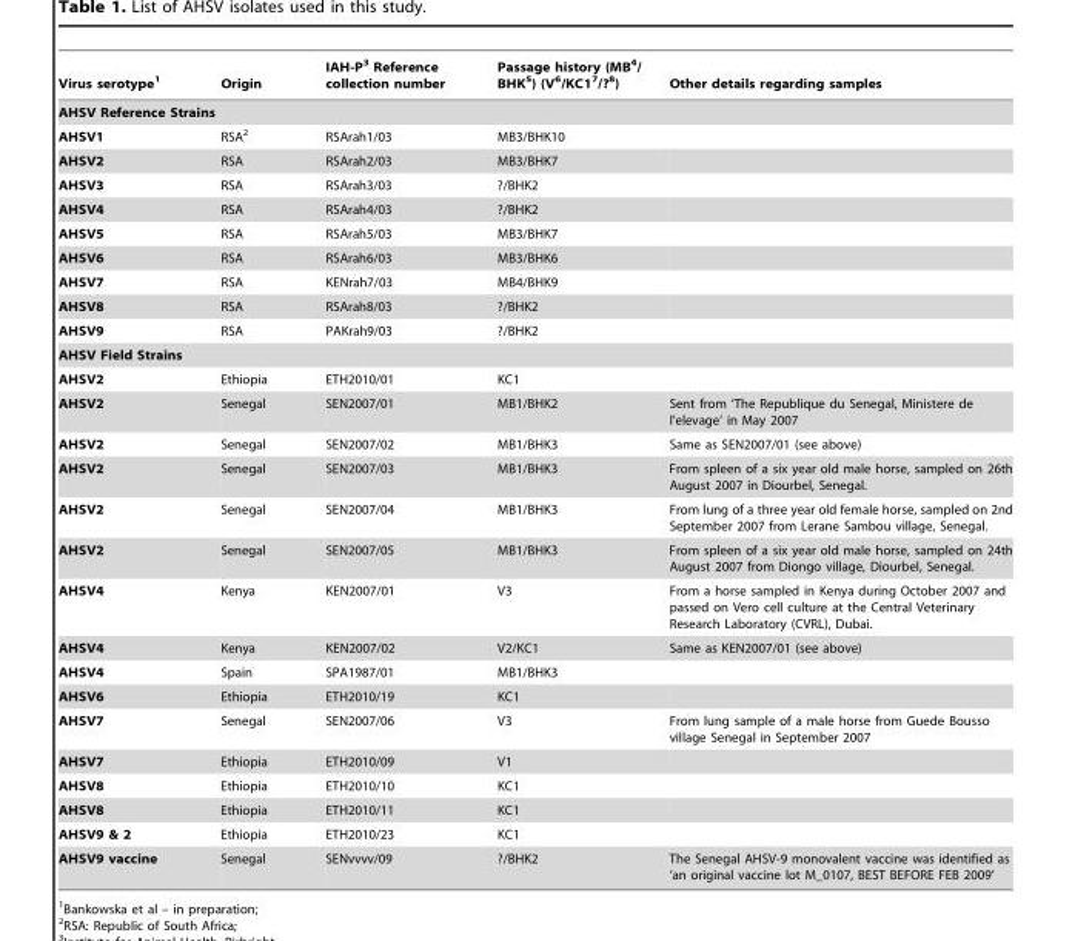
<table><thead><tr><td>Virus serotype<sup>1</sup></td><td>Origin</td><td>IAH-P<sup>3</sup> Reference collection number</td><td>Passage history (MB<sup>4</sup>/ BHK<sup>5</sup>) (V<sup>6</sup>/KC1<sup>7</sup>/?<sup>8</sup>)</td><td>Other details regarding samples</td></tr></thead><tbody><tr><td colspan="5">AHSV Reference Strains</td></tr><tr><td>AHSV1</td><td>RSA<sup>2</sup></td><td>RSArah1/03</td><td>MB3/BHK10</td><td></td></tr><tr><td>AHSV2</td><td>RSA</td><td>RSArah2/03</td><td>MB3/BHK7</td><td></td></tr><tr><td>AHSV3</td><td>RSA</td><td>RSArah3/03</td><td>?/BHK2</td><td></td></tr><tr><td>AHSV4</td><td>RSA</td><td>RSArah4/03</td><td>?/BHK2</td><td></td></tr><tr><td>AHSV5</td><td>RSA</td><td>RSArah5/03</td><td>MB3/BHK7</td><td></td></tr><tr><td>AHSV6</td><td>RSA</td><td>RSArah6/03</td><td>MB3/BHK6</td><td></td></tr><tr><td>AHSV7</td><td>RSA</td><td>KENrah7/03</td><td>MB4/BHK9</td><td></td></tr><tr><td>AHSV8</td><td>RSA</td><td>RSArah8/03</td><td>?/BHK2</td><td></td></tr><tr><td>AHSV9</td><td>RSA</td><td>PAKrah9/03</td><td>?/BHK2</td><td></td></tr><tr><td colspan="5">AHSV Field Strains</td></tr><tr><td>AHSV2</td><td>Ethiopia</td><td>ETH2010/01</td><td>KC1</td><td></td></tr><tr><td>AHSV2</td><td>Senegal</td><td>SEN2007/01</td><td>MB1/BHK2</td><td>Sent from ‘The Republique du Senegal, Ministere de l’elevage’ in May 2007</td></tr><tr><td>AHSV2</td><td>Senegal</td><td>SEN2007/02</td><td>MB1/BHK3</td><td>Same as SEN2007/01 (see above)</td></tr><tr><td>AHSV2</td><td>Senegal</td><td>SEN2007/03</td><td>MB1/BHK3</td><td>From spleen of a six year old male horse, sampled on 26th August 2007 in Diourbel, Senegal.</td></tr><tr><td>AHSV2</td><td>Senegal</td><td>SEN2007/04</td><td>MB1/BHK3</td><td>From lung of a three year old female horse, sampled on 2nd September 2007 from Lerane Sambou village, Senegal.</td></tr><tr><td>AHSV2</td><td>Senegal</td><td>SEN2007/05</td><td>MB1/BHK3</td><td>From spleen of a six year old male horse, sampled on 24th August 2007 from Diongo village, Diourbel, Senegal.</td></tr><tr><td>AHSV4</td><td>Kenya</td><td>KEN2007/01</td><td>V3</td><td>From a horse sampled in Kenya during October 2007 and passed on Vero cell culture at the Central Veterinary Research Laboratory (CVRL), Dubai.</td></tr><tr><td>AHSV4</td><td>Kenya</td><td>KEN2007/02</td><td>V2/KC1</td><td>Same as KEN2007/01 (see above)</td></tr><tr><td>AHSV4</td><td>Spain</td><td>SPA1987/01</td><td>MB1/BHK3</td><td></td></tr><tr><td>AHSV6</td><td>Ethiopia</td><td>ETH2010/19</td><td>KC1</td><td></td></tr><tr><td>AHSV7</td><td>Senegal</td><td>SEN2007/06</td><td>V3</td><td>From lung sample of a male horse from Guede Bousso village Senegal in September 2007</td></tr><tr><td>AHSV7</td><td>Ethiopia</td><td>ETH2010/09</td><td>V1</td><td></td></tr><tr><td>AHSV8</td><td>Ethiopia</td><td>ETH2010/10</td><td>KC1</td><td></td></tr><tr><td>AHSV8</td><td>Ethiopia</td><td>ETH2010/11</td><td>KC1</td><td></td></tr><tr><td>AHSV9 &amp; 2</td><td>Ethiopia</td><td>ETH2010/23</td><td>KC1</td><td></td></tr><tr><td>AHSV9 vaccine</td><td>Senegal</td><td>SENvvvv/09</td><td>?/BHK2</td><td>The Senegal AHSV-9 monovalent vaccine was identified as ‘an original vaccine lot M_0107, BEST BEFORE FEB 2009’</td></tr></tbody></table>